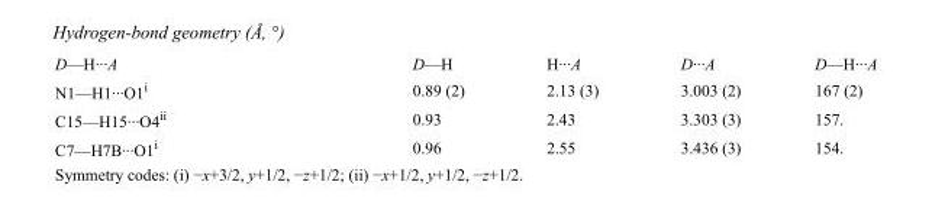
<table><tbody><tr><td>D—H···A</td><td>D—H</td><td>H···A</td><td>D···A</td><td>D—H···A</td></tr><tr><td>N1—H1···O1<sup>i</sup></td><td>0.89 (2)</td><td>2.13 (3)</td><td>3.003 (2)</td><td>167 (2)</td></tr><tr><td>C15—H15···O4<sup>ii</sup></td><td>0.93</td><td>2.43</td><td>3.303 (3)</td><td>157.</td></tr><tr><td>C7—H7B···O1<sup>i</sup></td><td>0.96</td><td>2.55</td><td>3.436 (3)</td><td>154.</td></tr></tbody></table>